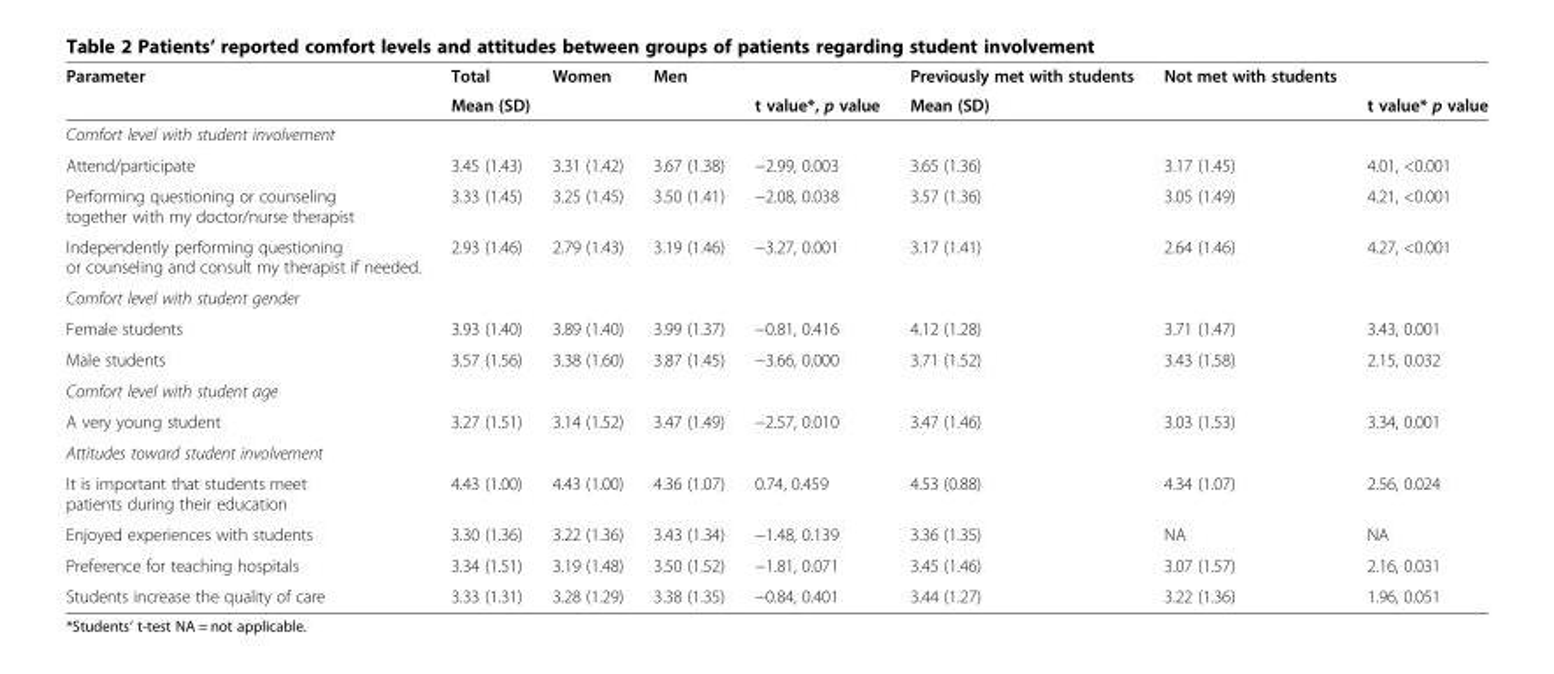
<table><thead><tr><td rowspan="2">Parameter</td><td>Total</td><td>Women</td><td>Men</td><td rowspan="2">t value*, p value</td><td>Previously met with students</td><td>Not met with students</td><td rowspan="2">t value* p value</td></tr><tr><td colspan="3">Mean (SD)</td><td colspan="2">Mean (SD)</td></tr></thead><tbody><tr><td colspan="8">Comfort level with student involvement</td></tr><tr><td>Attend/participate</td><td>3.45 (1.43)</td><td>3.31 (1.42)</td><td>3.67 (1.38)</td><td>−2.99, 0.003</td><td>3.65 (1.36)</td><td>3.17 (1.45)</td><td>4.01, &lt;0.001</td></tr><tr><td>Performing questioning or counseling together with my doctor/nurse therapist</td><td>3.33 (1.45)</td><td>3.25 (1.45)</td><td>3.50 (1.41)</td><td>−2.08, 0.038</td><td>3.57 (1.36)</td><td>3.05 (1.49)</td><td>4.21, &lt;0.001</td></tr><tr><td>Independently performing questioning or counseling and consult my therapist if needed.</td><td>2.93 (1.46)</td><td>2.79 (1.43)</td><td>3.19 (1.46)</td><td>−3.27, 0.001</td><td>3.17 (1.41)</td><td>2.64 (1.46)</td><td>4.27, &lt;0.001</td></tr><tr><td colspan="8">Comfort level with student gender</td></tr><tr><td>Female students</td><td>3.93 (1.40)</td><td>3.89 (1.40)</td><td>3.99 (1.37)</td><td>−0.81, 0.416</td><td>4.12 (1.28)</td><td>3.71 (1.47)</td><td>3.43, 0.001</td></tr><tr><td>Male students</td><td>3.57 (1.56)</td><td>3.38 (1.60)</td><td>3.87 (1.45)</td><td>−3.66, 0.000</td><td>3.71 (1.52)</td><td>3.43 (1.58)</td><td>2.15, 0.032</td></tr><tr><td colspan="8">Comfort level with student age</td></tr><tr><td>A very young student</td><td>3.27 (1.51)</td><td>3.14 (1.52)</td><td>3.47 (1.49)</td><td>−2.57, 0.010</td><td>3.47 (1.46)</td><td>3.03 (1.53)</td><td>3.34, 0.001</td></tr><tr><td colspan="8">Attitudes toward student involvement</td></tr><tr><td>It is important that students meet patients during their education</td><td>4.43 (1.00)</td><td>4.43 (1.00)</td><td>4.36 (1.07)</td><td>0.74, 0.459</td><td>4.53 (0.88)</td><td>4.34 (1.07)</td><td>2.56, 0.024</td></tr><tr><td>Enjoyed experiences with students</td><td>3.30 (1.36)</td><td>3.22 (1.36)</td><td>3.43 (1.34)</td><td>−1.48, 0.139</td><td>3.36 (1.35)</td><td>NA</td><td>NA</td></tr><tr><td>Preference for teaching hospitals</td><td>3.34 (1.51)</td><td>3.19 (1.48)</td><td>3.50 (1.52)</td><td>−1.81, 0.071</td><td>3.45 (1.46)</td><td>3.07 (1.57)</td><td>2.16, 0.031</td></tr><tr><td>Students increase the quality of care</td><td>3.33 (1.31)</td><td>3.28 (1.29)</td><td>3.38 (1.35)</td><td>−0.84, 0.401</td><td>3.44 (1.27)</td><td>3.22 (1.36)</td><td>1.96, 0.051</td></tr></tbody></table>